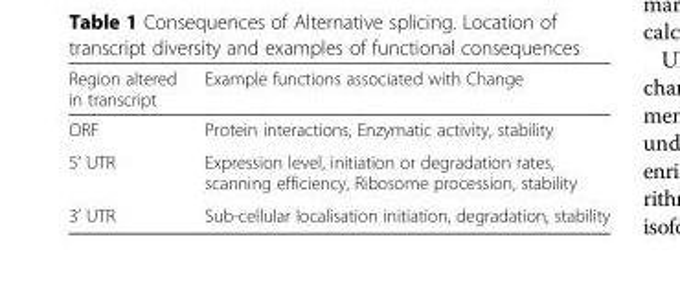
<table><thead><tr><td>Region altered in transcript</td><td>Example functions associated with Change</td></tr></thead><tbody><tr><td>ORF</td><td>Protein interactions, Enzymatic activity, stability</td></tr><tr><td>5’ UTR</td><td>Expression level, initiation or degradation rates, scanning efficiency, Ribosome procession, stability</td></tr><tr><td>3’ UTR</td><td>Sub-cellular localisation initiation, degradation, stability</td></tr></tbody></table>